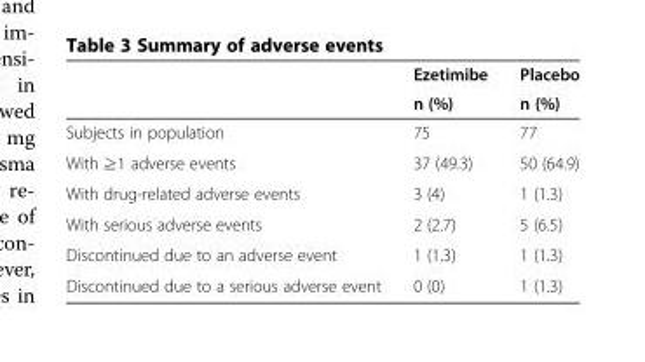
<table><thead><tr><td rowspan="2"></td><td rowspan="2">Ezetimibe n (%)</td><td rowspan="2">Placebo n (%)</td></tr><tr></tr></thead><tbody><tr><td>Subjects in population</td><td>75</td><td>77</td></tr><tr><td>With ≥1 adverse events</td><td>37 (49.3)</td><td>50 (64.9)</td></tr><tr><td>With drug-related adverse events</td><td>3 (4)</td><td>1 (1.3)</td></tr><tr><td>With serious adverse events</td><td>2 (2.7)</td><td>5 (6.5)</td></tr><tr><td>Discontinued due to an adverse event</td><td>1 (1.3)</td><td>1 (1.3)</td></tr><tr><td>Discontinued due to a serious adverse event</td><td>0 (0)</td><td>1 (1.3)</td></tr></tbody></table>